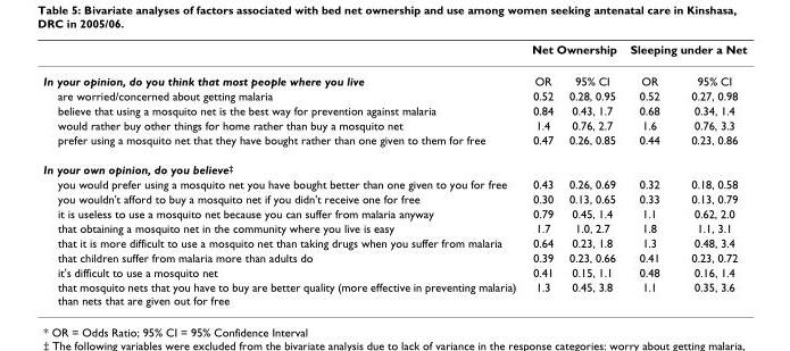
<table><thead><tr><td rowspan="2">In your opinion, do you think that most people where you live</td><td colspan="2">Net Ownership</td><td colspan="2">Sleeping under a Net</td></tr><tr><td>OR</td><td>95% CI</td><td>OR</td><td>95% CI</td></tr></thead><tbody><tr><td>are worried/concerned about getting malaria</td><td>0.52</td><td>0.28, 0.95</td><td>0.52</td><td>0.27, 0.98</td></tr><tr><td>believe that using a mosquito net is the best way for prevention against malaria</td><td>0.84</td><td>0.43, 1.7</td><td>0.68</td><td>0.34, 1.4</td></tr><tr><td>would rather buy other things for home rather than buy a mosquito net</td><td>1.4</td><td>0.76, 2.7</td><td>1.6</td><td>0.76, 3.3</td></tr><tr><td>prefer using a mosquito net that they have bought rather than one given to them for free</td><td>0.47</td><td>0.26, 0.85</td><td>0.44</td><td>0.23, 0.86</td></tr><tr><td colspan="5">In your own opinion, do you believe<sup>‡</sup></td></tr><tr><td>you would prefer using a mosquito net you have bought better than one given to you for free</td><td>0.43</td><td>0.26, 0.69</td><td>0.32</td><td>0.18, 0.58</td></tr><tr><td>you wouldn&#x27;t afford to buy a mosquito net if you didn&#x27;t receive one for free</td><td>0.30</td><td>0.13, 0.65</td><td>0.33</td><td>0.13, 0.79</td></tr><tr><td>it is useless to use a mosquito net because you can suffer from malaria anyway</td><td>0.79</td><td>0.45, 1.4</td><td>1.1</td><td>0.62, 2.0</td></tr><tr><td>that obtaining a mosquito net in the community where you live is easy</td><td>1.7</td><td>1.0, 2.7</td><td>1.8</td><td>1.1, 3.1</td></tr><tr><td>that it is more difficult to use a mosquito net than taking drugs when you suffer from malaria</td><td>0.64</td><td>0.23, 1.8</td><td>1.3</td><td>0.48, 3.4</td></tr><tr><td>that children suffer from malaria more than adults do</td><td>0.39</td><td>0.23, 0.66</td><td>0.41</td><td>0.23, 0.72</td></tr><tr><td>it&#x27;s difficult to use a mosquito net</td><td>0.41</td><td>0.15, 1.1</td><td>0.48</td><td>0.16, 1.4</td></tr><tr><td>that mosquito nets that you have to buy are better quality (more effective in preventing malaria) than nets that are given out for free</td><td>1.3</td><td>0.45, 3.8</td><td>1.1</td><td>0.35, 3.6</td></tr></tbody></table>